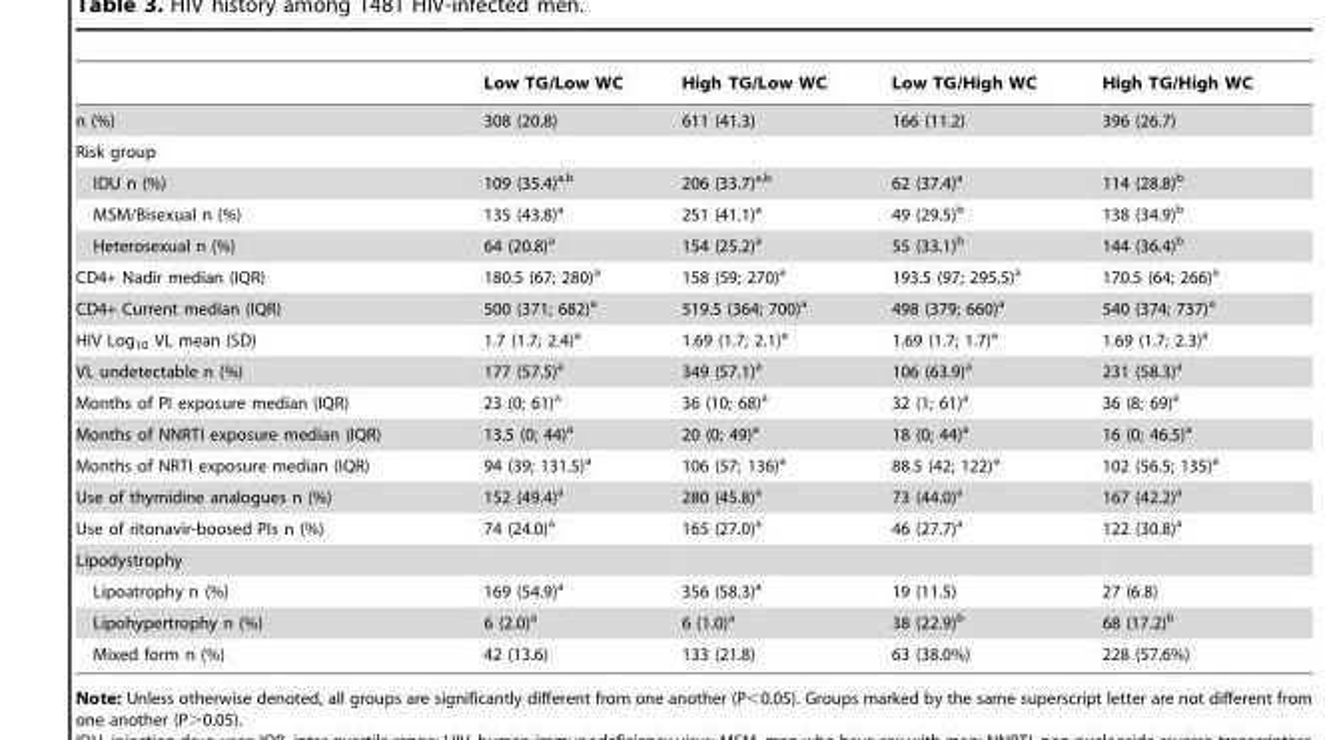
<table><thead><tr><td></td><td>Low TG/Low WC</td><td>High TG/Low WC</td><td>Low TG/High WC</td><td>High TG/High WC</td></tr></thead><tbody><tr><td>n (%)</td><td>308 (20.8)</td><td>611 (41.3)</td><td>166 (11.2)</td><td>396 (26.7)</td></tr><tr><td colspan="5">Risk group</td></tr><tr><td>IDU n (%)</td><td>109 (35.4)<sup>a,b</sup></td><td>206 (33.7)<sup>a,b</sup></td><td>62 (37.4)<sup>a</sup></td><td>114 (28.8)<sup>b</sup></td></tr><tr><td>MSM/Bisexual n (%)</td><td>135 (43.8)<sup>a</sup></td><td>251 (41.1)<sup>a</sup></td><td>49 (29.5)<sup>b</sup></td><td>138 (34.9)<sup>b</sup></td></tr><tr><td>Heterosexual n (%)</td><td>64 (20.8)<sup>a</sup></td><td>154 (25.2)<sup>a</sup></td><td>55 (33.1)<sup>b</sup></td><td>144 (36.4)<sup>b</sup></td></tr><tr><td>CD4+ Nadir median (IQR)</td><td>180.5 (67; 280)<sup>a</sup></td><td>158 (59; 270)<sup>a</sup></td><td>193.5 (97; 295.5)<sup>a</sup></td><td>170.5 (64; 266)<sup>a</sup></td></tr><tr><td>CD4+ Current median (IQR)</td><td>500 (371; 682)<sup>a</sup></td><td>519.5 (364; 700)<sup>a</sup></td><td>498 (379; 660)<sup>a</sup></td><td>540 (374; 737)<sup>a</sup></td></tr><tr><td>HIV Log<sub>10</sub> VL mean (SD)</td><td>1.7 (1.7; 2.4)<sup>a</sup></td><td>1.69 (1.7; 2.1)<sup>a</sup></td><td>1.69 (1.7; 1.7)<sup>a</sup></td><td>1.69 (1.7; 2.3)<sup>a</sup></td></tr><tr><td>VL undetectable n (%)</td><td>177 (57.5)<sup>a</sup></td><td>349 (57.1)<sup>a</sup></td><td>106 (63.9)<sup>a</sup></td><td>231 (58.3)<sup>a</sup></td></tr><tr><td>Months of PI exposure median (IQR)</td><td>23 (0; 61)<sup>a</sup></td><td>36 (10; 68)<sup>a</sup></td><td>32 (1; 61)<sup>a</sup></td><td>36 (8; 69)<sup>a</sup></td></tr><tr><td>Months of NNRTI exposure median (IQR)</td><td>13.5 (0; 44)<sup>a</sup></td><td>20 (0; 49)<sup>a</sup></td><td>18 (0; 44)<sup>a</sup></td><td>16 (0; 46.5)<sup>a</sup></td></tr><tr><td>Months of NRTI exposure median (IQR)</td><td>94 (39; 131.5)<sup>a</sup></td><td>106 (57; 136)<sup>a</sup></td><td>88.5 (42; 122)<sup>a</sup></td><td>102 (56.5; 135)<sup>a</sup></td></tr><tr><td>Use of thymidine analogues n (%)</td><td>152 (49.4)<sup>a</sup></td><td>280 (45.8)<sup>a</sup></td><td>73 (44.0)<sup>a</sup></td><td>167 (42.2)<sup>a</sup></td></tr><tr><td>Use of ritonavir-boosed PIs n (%)</td><td>74 (24.0)<sup>a</sup></td><td>165 (27.0)<sup>a</sup></td><td>46 (27.7)<sup>a</sup></td><td>122 (30.8)<sup>a</sup></td></tr><tr><td colspan="5">Lipodystrophy</td></tr><tr><td>Lipoatrophy n (%)</td><td>169 (54.9)<sup>a</sup></td><td>356 (58.3)<sup>a</sup></td><td>19 (11.5)</td><td>27 (6.8)</td></tr><tr><td>Lipohypertrophy n (%)</td><td>6 (2.0)<sup>a</sup></td><td>6 (1.0)<sup>a</sup></td><td>38 (22.9)<sup>b</sup></td><td>68 (17.2)<sup>b</sup></td></tr><tr><td>Mixed form n (%)</td><td>42 (13.6)</td><td>133 (21.8)</td><td>63 (38.0%)</td><td>228 (57.6%)</td></tr></tbody></table>